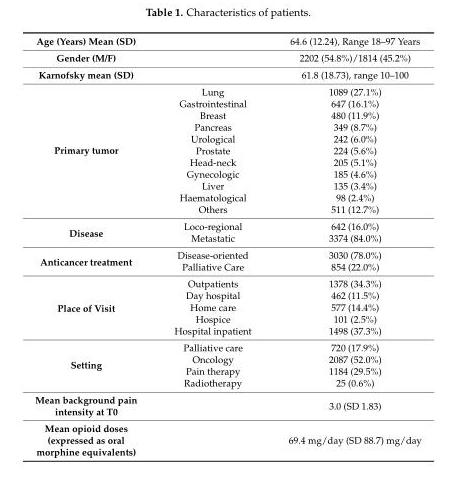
<table><tbody><tr><td>Age (Years) Mean (SD)</td><td></td><td>64.6 (12.24), Range 18–97 Years</td></tr><tr><td>Gender (M/F)</td><td></td><td>2202 (54.8%)/1814 (45.2%)</td></tr><tr><td>Karnofsky mean (SD)</td><td></td><td>61.8 (18.73), range 10–100</td></tr><tr><td rowspan="11">Primary tumor</td><td>Lung</td><td>1089 (27.1%)</td></tr><tr><td>Gastrointestinal</td><td>647 (16.1%)</td></tr><tr><td>Breast</td><td>480 (11.9%)</td></tr><tr><td>Pancreas</td><td>349 (8.7%)</td></tr><tr><td>Urological</td><td>242 (6.0%)</td></tr><tr><td>Prostate</td><td>224 (5.6%)</td></tr><tr><td>Head-neck</td><td>205 (5.1%)</td></tr><tr><td>Gynecologic</td><td>185 (4.6%)</td></tr><tr><td>Liver</td><td>135 (3.4%)</td></tr><tr><td>Haematological</td><td>98 (2.4%)</td></tr><tr><td>Others</td><td>511 (12.7%)</td></tr><tr><td rowspan="2">Disease</td><td>Loco-regional</td><td>642 (16.0%)</td></tr><tr><td>Metastatic</td><td>3374 (84.0%)</td></tr><tr><td rowspan="2">Anticancer treatment</td><td>Disease-oriented</td><td>3030 (78.0%)</td></tr><tr><td>Palliative Care</td><td>854 (22.0%)</td></tr><tr><td rowspan="5">Place of Visit</td><td>Outpatients</td><td>1378 (34.3%)</td></tr><tr><td>Day hospital</td><td>462 (11.5%)</td></tr><tr><td>Home care</td><td>577 (14.4%)</td></tr><tr><td>Hospice</td><td>101 (2.5%)</td></tr><tr><td>Hospital inpatient</td><td>1498 (37.3%)</td></tr><tr><td rowspan="4">Setting</td><td>Palliative care</td><td>720 (17.9%)</td></tr><tr><td>Oncology</td><td>2087 (52.0%)</td></tr><tr><td>Pain therapy</td><td>1184 (29.5%)</td></tr><tr><td>Radiotherapy</td><td>25 (0.6%)</td></tr><tr><td>Mean background pain intensity at T0</td><td></td><td>3.0 (SD 1.83)</td></tr><tr><td>Mean opioid doses (expressed as oral morphine equivalents)</td><td></td><td>69.4 mg/day (SD 88.7) mg/day</td></tr></tbody></table>